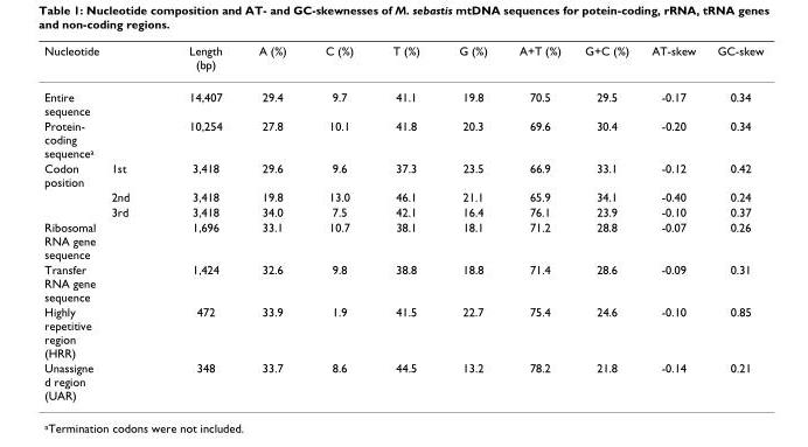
<table><thead><tr><td>Nucleotide</td><td></td><td>Length (bp)</td><td>A (%)</td><td>C (%)</td><td>T (%)</td><td>G (%)</td><td>A+T (%)</td><td>G+C (%)</td><td>AT-skew</td><td>GC-skew</td></tr></thead><tbody><tr><td>Entire sequence</td><td></td><td>14,407</td><td>29.4</td><td>9.7</td><td>41.1</td><td>19.8</td><td>70.5</td><td>29.5</td><td>-0.17</td><td>0.34</td></tr><tr><td>Protein- coding sequence<sup>a</sup></td><td></td><td>10,254</td><td>27.8</td><td>10.1</td><td>41.8</td><td>20.3</td><td>69.6</td><td>30.4</td><td>-0.20</td><td>0.34</td></tr><tr><td rowspan="3">Codon position</td><td>1st</td><td>3,418</td><td>29.6</td><td>9.6</td><td>37.3</td><td>23.5</td><td>66.9</td><td>33.1</td><td>-0.12</td><td>0.42</td></tr><tr><td>2nd</td><td>3,418</td><td>19.8</td><td>13.0</td><td>46.1</td><td>21.1</td><td>65.9</td><td>34.1</td><td>-0.40</td><td>0.24</td></tr><tr><td>3rd</td><td>3,418</td><td>34.0</td><td>7.5</td><td>42.1</td><td>16.4</td><td>76.1</td><td>23.9</td><td>-0.10</td><td>0.37</td></tr><tr><td>Ribosomal RNA gene sequence</td><td></td><td>1,696</td><td>33.1</td><td>10.7</td><td>38.1</td><td>18.1</td><td>71.2</td><td>28.8</td><td>-0.07</td><td>0.26</td></tr><tr><td>Transfer RNA gene sequence</td><td></td><td>1,424</td><td>32.6</td><td>9.8</td><td>38.8</td><td>18.8</td><td>71.4</td><td>28.6</td><td>-0.09</td><td>0.31</td></tr><tr><td>Highly repetitive region (HRR)</td><td></td><td>472</td><td>33.9</td><td>1.9</td><td>41.5</td><td>22.7</td><td>75.4</td><td>24.6</td><td>-0.10</td><td>0.85</td></tr><tr><td>Unassigne d region (UAR)</td><td></td><td>348</td><td>33.7</td><td>8.6</td><td>44.5</td><td>13.2</td><td>78.2</td><td>21.8</td><td>-0.14</td><td>0.21</td></tr></tbody></table>